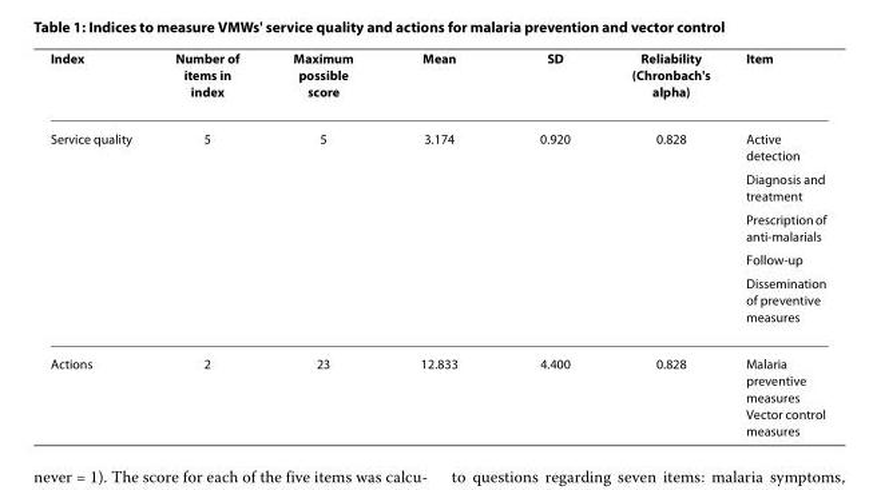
<table><thead><tr><td>Index</td><td>Number of items in index</td><td>Maximum possible score</td><td>Mean</td><td>SD</td><td>Reliability (Chronbach&#x27;s alpha)</td><td>Item</td></tr></thead><tbody><tr><td rowspan="5">Service quality</td><td>5</td><td>5</td><td>3.174</td><td>0.920</td><td>0.828</td><td>Active detection</td></tr><tr><td></td><td></td><td></td><td></td><td></td><td>Diagnosis and treatment</td></tr><tr><td></td><td></td><td></td><td></td><td></td><td>Prescription of anti-malarials</td></tr><tr><td></td><td></td><td></td><td></td><td></td><td>Follow-up</td></tr><tr><td></td><td></td><td></td><td></td><td></td><td>Dissemination of preventive measures</td></tr><tr><td>Actions</td><td>2</td><td>23</td><td>12.833</td><td>4.400</td><td>0.828</td><td>Malaria preventive measures Vector control measures</td></tr></tbody></table>